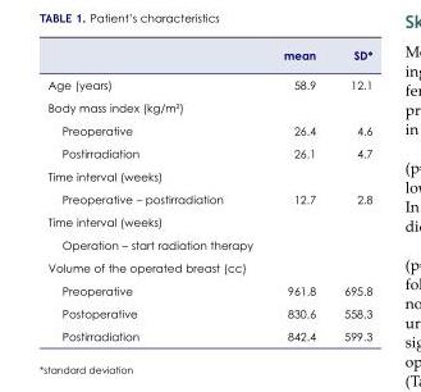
<table><thead><tr><td></td><td>mean</td><td>SD*</td></tr></thead><tbody><tr><td>Age (years)</td><td>58.9</td><td>12.1</td></tr><tr><td colspan="3">Body mass index (kg/m²)</td></tr><tr><td>Preoperative</td><td>26.4</td><td>4.6</td></tr><tr><td>Postirradiation</td><td>26.1</td><td>4.7</td></tr><tr><td colspan="3">Time interval (weeks)</td></tr><tr><td>Preoperative – postirradiation</td><td>12.7</td><td>2.8</td></tr><tr><td colspan="3">Time interval (weeks)</td></tr><tr><td colspan="3">Operation – start radiation therapy</td></tr><tr><td colspan="3">Volume of the operated breast (cc)</td></tr><tr><td>Preoperative</td><td>961.8</td><td>695.8</td></tr><tr><td>Postoperative</td><td>830.6</td><td>558.3</td></tr><tr><td>Postirradiation</td><td>842.4</td><td>599.3</td></tr></tbody></table>